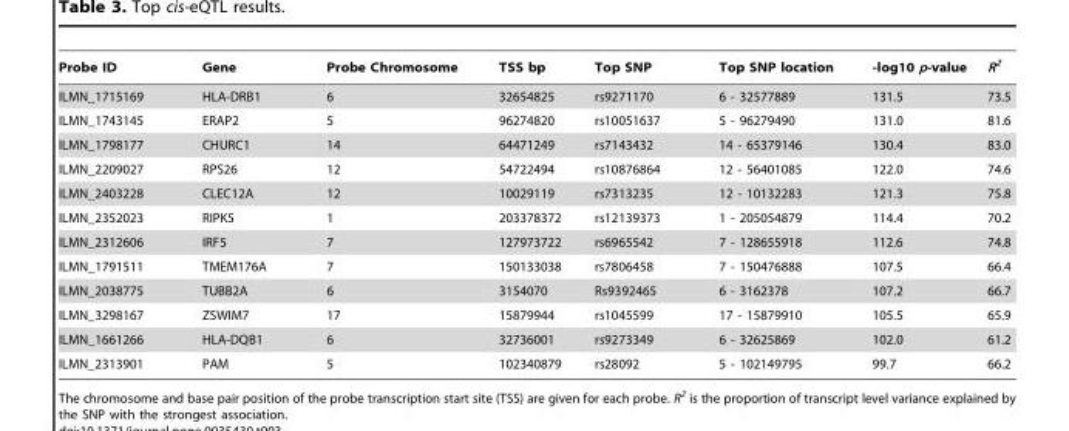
<table><thead><tr><td>Probe ID</td><td>Gene</td><td>Probe Chromosome</td><td>TSS bp</td><td>Top SNP</td><td>Top SNP location</td><td>-log10 p-value</td><td>R<sup>2</sup></td></tr></thead><tbody><tr><td>ILMN_1715169</td><td>HLA-DRB1</td><td>6</td><td>32654825</td><td>rs9271170</td><td>6 - 32577889</td><td>131.5</td><td>73.5</td></tr><tr><td>ILMN_1743145</td><td>ERAP2</td><td>5</td><td>96274820</td><td>rs10051637</td><td>5 - 96279490</td><td>131.0</td><td>81.6</td></tr><tr><td>ILMN_1798177</td><td>CHURC1</td><td>14</td><td>64471249</td><td>rs7143432</td><td>14 - 65379146</td><td>130.4</td><td>83.0</td></tr><tr><td>ILMN_2209027</td><td>RPS26</td><td>12</td><td>54722494</td><td>rs10876864</td><td>12 - 56401085</td><td>122.0</td><td>74.6</td></tr><tr><td>ILMN_2403228</td><td>CLEC12A</td><td>12</td><td>10029119</td><td>rs7313235</td><td>12 - 10132283</td><td>121.3</td><td>75.8</td></tr><tr><td>ILMN_2352023</td><td>RIPK5</td><td>1</td><td>203378372</td><td>rs12139373</td><td>1 - 205054879</td><td>114.4</td><td>70.2</td></tr><tr><td>ILMN_2312606</td><td>IRF5</td><td>7</td><td>127973722</td><td>rs6965542</td><td>7 - 128655918</td><td>112.6</td><td>74.8</td></tr><tr><td>ILMN_1791511</td><td>TMEM176A</td><td>7</td><td>150133038</td><td>rs7806458</td><td>7 - 150476888</td><td>107.5</td><td>66.4</td></tr><tr><td>ILMN_2038775</td><td>TUBB2A</td><td>6</td><td>3154070</td><td>Rs9392465</td><td>6 - 3162378</td><td>107.2</td><td>66.7</td></tr><tr><td>ILMN_3298167</td><td>ZSWIM7</td><td>17</td><td>15879944</td><td>rs1045599</td><td>17 - 15879910</td><td>105.5</td><td>65.9</td></tr><tr><td>ILMN_1661266</td><td>HLA-DQB1</td><td>6</td><td>32736001</td><td>rs9273349</td><td>6 - 32625869</td><td>102.0</td><td>61.2</td></tr><tr><td>ILMN_2313901</td><td>PAM</td><td>5</td><td>102340879</td><td>rs28092</td><td>5 - 102149795</td><td>99.7</td><td>66.2</td></tr></tbody></table>